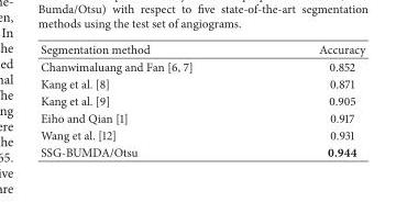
<table><thead><tr><td>Segmentation method</td><td>Accuracy</td></tr></thead><tbody><tr><td>Chanwimaluang and Fan [6, 7]</td><td>0.852</td></tr><tr><td>Kang et al. [8]</td><td>0.871</td></tr><tr><td>Kang et al. [9]</td><td>0.905</td></tr><tr><td>Eiho and Qian [1]</td><td>0.917</td></tr><tr><td>Wang et al. [12]</td><td>0.931</td></tr><tr><td>SSG-BUMDA/Otsu</td><td>0.944</td></tr></tbody></table>